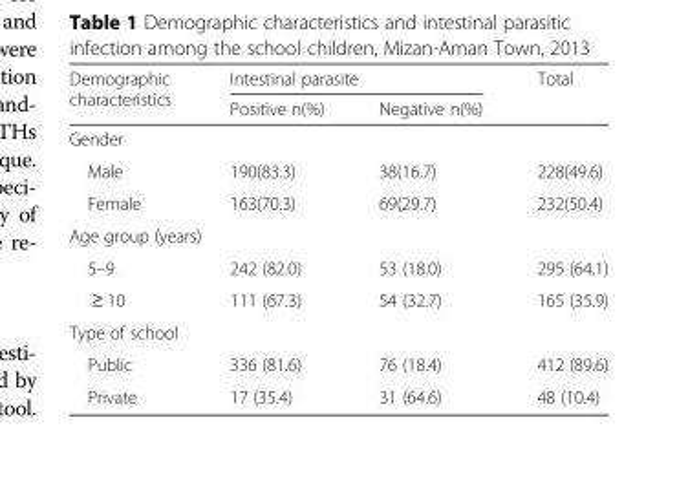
<table><thead><tr><td rowspan="2">Demographic characteristics</td><td colspan="2">Intestinal parasite</td><td rowspan="2">Total</td></tr><tr><td>Positive n(%)</td><td>Negative n(%)</td></tr></thead><tbody><tr><td colspan="4">Gender</td></tr><tr><td>Male</td><td>190(83.3)</td><td>38(16.7)</td><td>228(49.6)</td></tr><tr><td>Female</td><td>163(70.3)</td><td>69(29.7)</td><td>232(50.4)</td></tr><tr><td colspan="4">Age group (years)</td></tr><tr><td>5–9</td><td>242 (82.0)</td><td>53 (18.0)</td><td>295 (64.1)</td></tr><tr><td>≥ 10</td><td>111 (67.3)</td><td>54 (32.7)</td><td>165 (35.9)</td></tr><tr><td colspan="4">Type of school</td></tr><tr><td>Public</td><td>336 (81.6)</td><td>76 (18.4)</td><td>412 (89.6)</td></tr><tr><td>Private</td><td>17 (35.4)</td><td>31 (64.6)</td><td>48 (10.4)</td></tr></tbody></table>